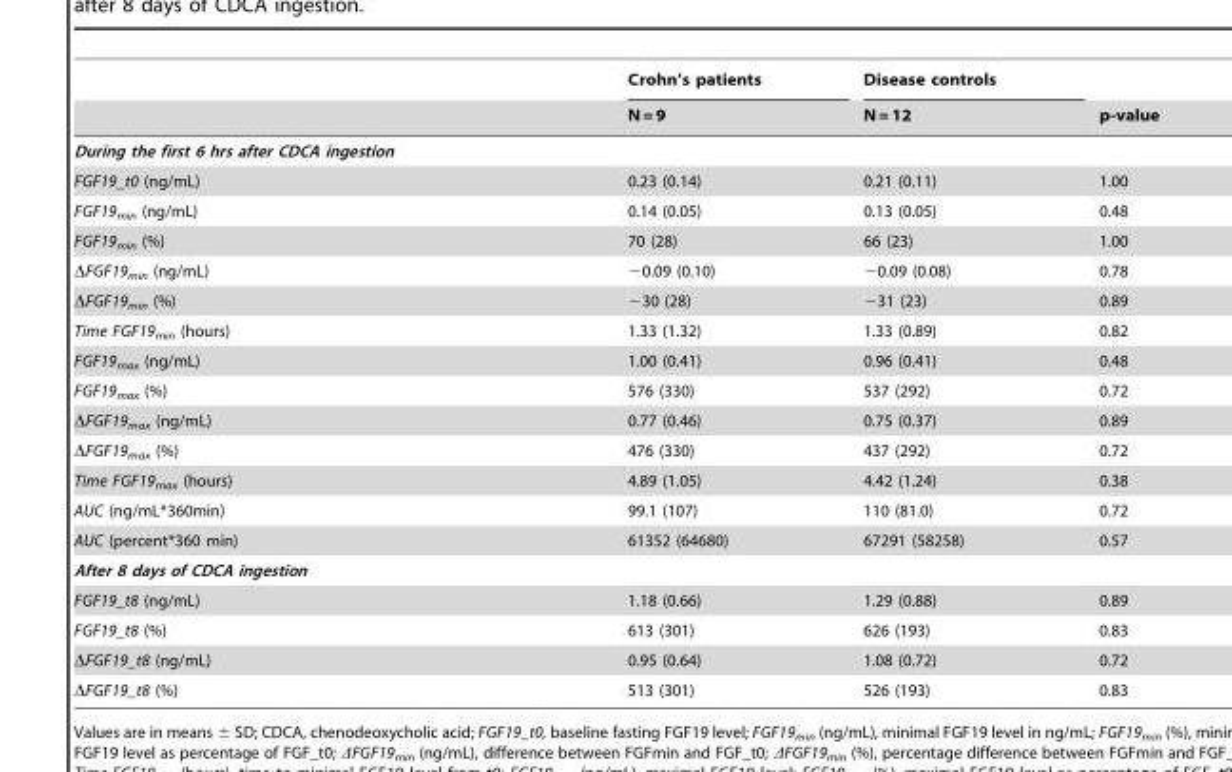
<table><thead><tr><td rowspan="2"></td><td rowspan="2">Crohn’s patients N = 9</td><td rowspan="2">Disease controls N = 12</td><td rowspan="2">p-value</td></tr><tr></tr></thead><tbody><tr><td colspan="4">During the first 6 hrs after CDCA ingestion</td></tr><tr><td>FGF19_t0 (ng/mL)</td><td>0.23 (0.14)</td><td>0.21 (0.11)</td><td>1.00</td></tr><tr><td>FGF19<sub>min</sub> (ng/mL)</td><td>0.14 (0.05)</td><td>0.13 (0.05)</td><td>0.48</td></tr><tr><td>FGF19<sub>min</sub> (%)</td><td>70 (28)</td><td>66 (23)</td><td>1.00</td></tr><tr><td>ΔFGF19<sub>min</sub> (ng/mL)</td><td>−0.09 (0.10)</td><td>−0.09 (0.08)</td><td>0.78</td></tr><tr><td>ΔFGF19<sub>min</sub> (%)</td><td>−30 (28)</td><td>−31 (23)</td><td>0.89</td></tr><tr><td>Time FGF19<sub>min</sub> (hours)</td><td>1.33 (1.32)</td><td>1.33 (0.89)</td><td>0.82</td></tr><tr><td>FGF19<sub>max</sub> (ng/mL)</td><td>1.00 (0.41)</td><td>0.96 (0.41)</td><td>0.48</td></tr><tr><td>FGF19<sub>max</sub> (%)</td><td>576 (330)</td><td>537 (292)</td><td>0.72</td></tr><tr><td>ΔFGF19<sub>max</sub> (ng/mL)</td><td>0.77 (0.46)</td><td>0.75 (0.37)</td><td>0.89</td></tr><tr><td>ΔFGF19<sub>max</sub> (%)</td><td>476 (330)</td><td>437 (292)</td><td>0.72</td></tr><tr><td>Time FGF19<sub>max</sub> (hours)</td><td>4.89 (1.05)</td><td>4.42 (1.24)</td><td>0.38</td></tr><tr><td>AUC (ng/mL*360min)</td><td>99.1 (107)</td><td>110 (81.0)</td><td>0.72</td></tr><tr><td>AUC (percent*360 min)</td><td>61352 (64680)</td><td>67291 (58258)</td><td>0.57</td></tr><tr><td colspan="4">After 8 days of CDCA ingestion</td></tr><tr><td>FGF19_t8 (ng/mL)</td><td>1.18 (0.66)</td><td>1.29 (0.88)</td><td>0.89</td></tr><tr><td>FGF19_t8 (%)</td><td>613 (301)</td><td>626 (193)</td><td>0.83</td></tr><tr><td>ΔFGF19_t8 (ng/mL)</td><td>0.95 (0.64)</td><td>1.08 (0.72)</td><td>0.72</td></tr><tr><td>ΔFGF19_t8 (%)</td><td>513 (301)</td><td>526 (193)</td><td>0.83</td></tr></tbody></table>